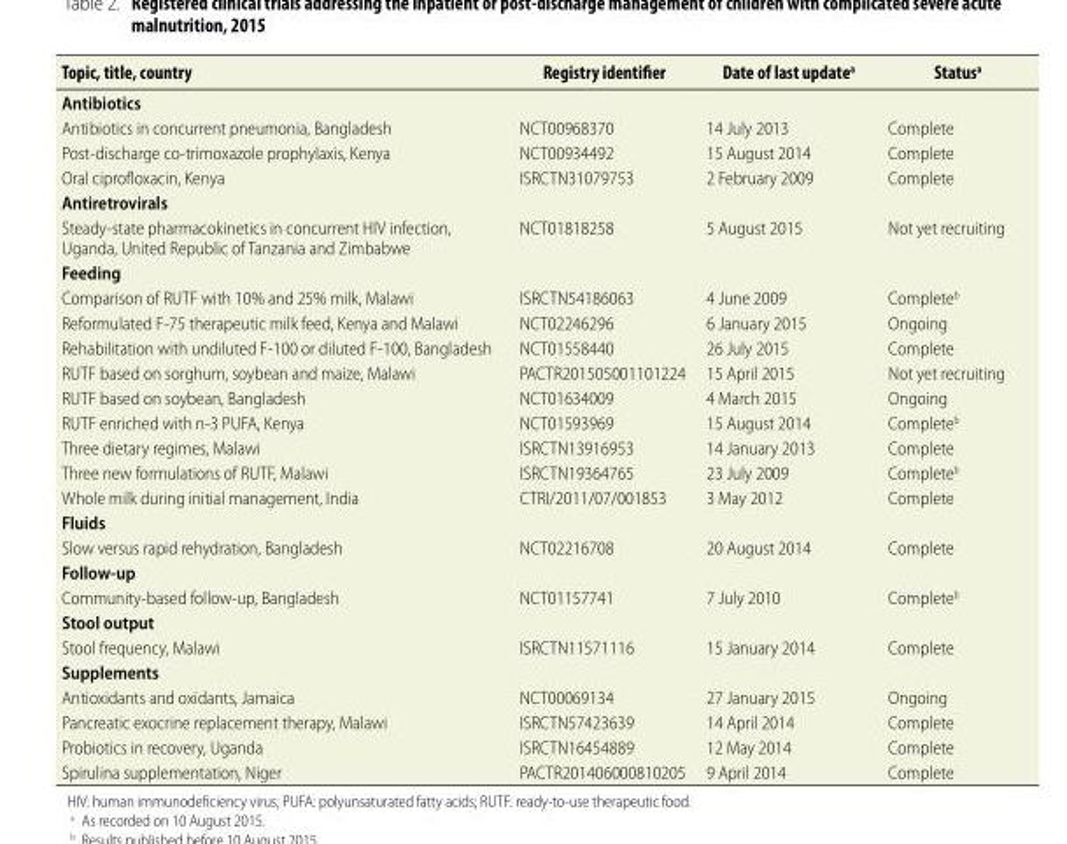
<table><thead><tr><td>Topic, title, country</td><td>Registry identifier</td><td>Date of last update<sup>a</sup></td><td>Status<sup>a</sup></td></tr></thead><tbody><tr><td colspan="4">Antibiotics</td></tr><tr><td>Antibiotics in concurrent pneumonia, Bangladesh</td><td>NCT00968370</td><td>14 July 2013</td><td>Complete</td></tr><tr><td>Post-discharge co-trimoxazole prophylaxis, Kenya</td><td>NCT00934492</td><td>15 August 2014</td><td>Complete</td></tr><tr><td>Oral ciprofloxacin, Kenya</td><td>ISRCTN31079753</td><td>2 February 2009</td><td>Complete</td></tr><tr><td colspan="4">Antiretrovirals</td></tr><tr><td>Steady-state pharmacokinetics in concurrent HIV infection, Uganda, United Republic of Tanzania and Zimbabwe</td><td>NCT01818258</td><td>5 August 2015</td><td>Not yet recruiting</td></tr><tr><td colspan="4">Feeding</td></tr><tr><td>Comparison of RUTF with 10% and 25% milk, Malawi</td><td>ISRCTN54186063</td><td>4 June 2009</td><td>Complete<sup>b</sup></td></tr><tr><td>Reformulated F-75 therapeutic milk feed, Kenya and Malawi</td><td>NCT02246296</td><td>6 January 2015</td><td>Ongoing</td></tr><tr><td>Rehabilitation with undiluted F-100 or diluted F-100, Bangladesh</td><td>NCT01558440</td><td>26 July 2015</td><td>Complete</td></tr><tr><td>RUTF based on sorghum, soybean and maize, Malawi</td><td>PACTR201505001101224</td><td>15 April 2015</td><td>Not yet recruiting</td></tr><tr><td>RUTF based on soybean, Bangladesh</td><td>NCT01634009</td><td>4 March 2015</td><td>Ongoing</td></tr><tr><td>RUTF enriched with n-3 PUFA, Kenya</td><td>NCT01593969</td><td>15 August 2014</td><td>Complete<sup>b</sup></td></tr><tr><td>Three dietary regimes, Malawi</td><td>ISRCTN13916953</td><td>14 January 2013</td><td>Complete</td></tr><tr><td>Three new formulations of RUTF, Malawi</td><td>ISRCTN19364765</td><td>23 July 2009</td><td>Complete<sup>b</sup></td></tr><tr><td>Whole milk during initial management, India</td><td>CTRI/2011/07/001853</td><td>3 May 2012</td><td>Complete</td></tr><tr><td colspan="4">Fluids</td></tr><tr><td>Slow versus rapid rehydration, Bangladesh</td><td>NCT02216708</td><td>20 August 2014</td><td>Complete</td></tr><tr><td colspan="4">Follow-up</td></tr><tr><td>Community-based follow-up, Bangladesh</td><td>NCT01157741</td><td>7 July 2010</td><td>Complete<sup>b</sup></td></tr><tr><td colspan="4">Stool output</td></tr><tr><td>Stool frequency, Malawi</td><td>ISRCTN11571116</td><td>15 January 2014</td><td>Complete</td></tr><tr><td colspan="4">Supplements</td></tr><tr><td>Antioxidants and oxidants, Jamaica</td><td>NCT00069134</td><td>27 January 2015</td><td>Ongoing</td></tr><tr><td>Pancreatic exocrine replacement therapy, Malawi</td><td>ISRCTN57423639</td><td>14 April 2014</td><td>Complete</td></tr><tr><td>Probiotics in recovery, Uganda</td><td>ISRCTN16454889</td><td>12 May 2014</td><td>Complete</td></tr><tr><td>Spirulina supplementation, Niger</td><td>PACTR201406000810205</td><td>9 April 2014</td><td>Complete</td></tr></tbody></table>